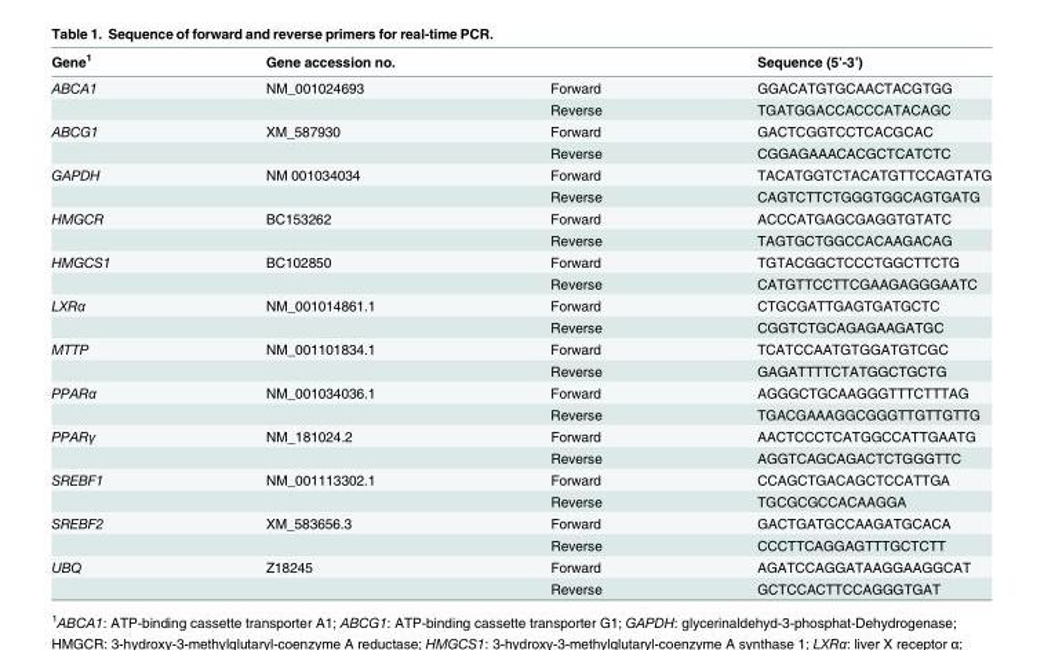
<table><thead><tr><td>Gene<sup>1</sup></td><td>Gene accession no.</td><td></td><td>Sequence (5’-3’)</td></tr></thead><tbody><tr><td rowspan="2">ABCA1</td><td>NM_001024693</td><td>Forward</td><td>GGACATGTGCAACTACGTGG</td></tr><tr><td></td><td>Reverse</td><td>TGATGGACCACCCATACAGC</td></tr><tr><td rowspan="2">ABCG1</td><td>XM_587930</td><td>Forward</td><td>GACTCGGTCCTCACGCAC</td></tr><tr><td></td><td>Reverse</td><td>CGGAGAAACACGCTCATCTC</td></tr><tr><td rowspan="2">GAPDH</td><td>NM 001034034</td><td>Forward</td><td>TACATGGTCTACATGTTCCAGTATG</td></tr><tr><td></td><td>Reverse</td><td>CAGTCTTCTGGGTGGCAGTGATG</td></tr><tr><td rowspan="2">HMGCR</td><td>BC153262</td><td>Forward</td><td>ACCCATGAGCGAGGTGTATC</td></tr><tr><td></td><td>Reverse</td><td>TAGTGCTGGCCACAAGACAG</td></tr><tr><td rowspan="2">HMGCS1</td><td>BC102850</td><td>Forward</td><td>TGTACGGCTCCCTGGCTTCTG</td></tr><tr><td></td><td>Reverse</td><td>CATGTTCCTTCGAAGAGGGAATC</td></tr><tr><td rowspan="2">LXRα</td><td>NM_001014861.1</td><td>Forward</td><td>CTGCGATTGAGTGATGCTC</td></tr><tr><td></td><td>Reverse</td><td>CGGTCTGCAGAGAAGATGC</td></tr><tr><td rowspan="2">MTTP</td><td>NM_001101834.1</td><td>Forward</td><td>TCATCCAATGTGGATGTCGC</td></tr><tr><td></td><td>Reverse</td><td>GAGATTTTCTATGGCTGCTG</td></tr><tr><td rowspan="2">PPARα</td><td>NM_001034036.1</td><td>Forward</td><td>AGGGCTGCAAGGGTTTCTTTAG</td></tr><tr><td></td><td>Reverse</td><td>TGACGAAAGGCGGGTTGTTGTTG</td></tr><tr><td rowspan="2">PPARγ</td><td>NM_181024.2</td><td>Forward</td><td>AACTCCCTCATGGCCATTGAATG</td></tr><tr><td></td><td>Reverse</td><td>AGGTCAGCAGACTCTGGGTTC</td></tr><tr><td rowspan="2">SREBF1</td><td>NM_001113302.1</td><td>Forward</td><td>CCAGCTGACAGCTCCATTGA</td></tr><tr><td></td><td>Reverse</td><td>TGCGCGCCACAAGGA</td></tr><tr><td rowspan="2">SREBF2</td><td>XM_583656.3</td><td>Forward</td><td>GACTGATGCCAAGATGCACA</td></tr><tr><td></td><td>Reverse</td><td>CCCTTCAGGAGTTTGCTCTT</td></tr><tr><td rowspan="2">UBQ</td><td>Z18245</td><td>Forward</td><td>AGATCCAGGATAAGGAAGGCAT</td></tr><tr><td></td><td>Reverse</td><td>GCTCCACTTCCAGGGTGAT</td></tr></tbody></table>